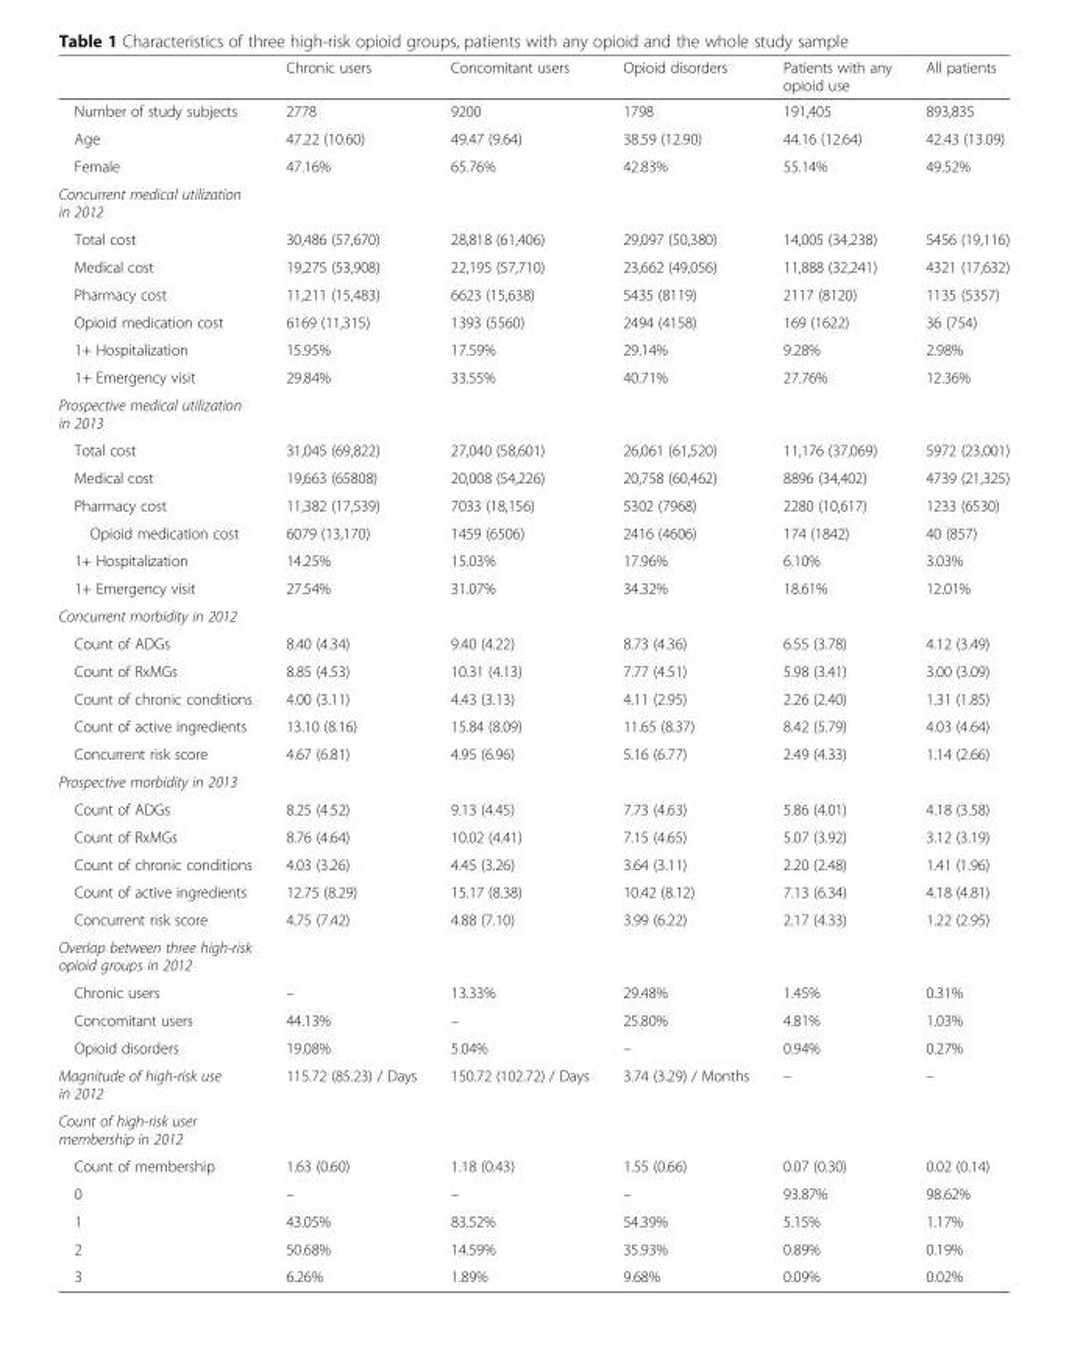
<table><thead><tr><td></td><td>Chronic users</td><td>Concomitant users</td><td>Opioid disorders</td><td>Patients with any opioid use</td><td>All patients</td></tr></thead><tbody><tr><td>Number of study subjects</td><td>2778</td><td>9200</td><td>1798</td><td>191,405</td><td>893,835</td></tr><tr><td>Age</td><td>47.22 (10.60)</td><td>49.47 (9.64)</td><td>38.59 (12.90)</td><td>44.16 (12.64)</td><td>42.43 (13.09)</td></tr><tr><td>Female</td><td>47.16%</td><td>65.76%</td><td>42.83%</td><td>55.14%</td><td>49.52%</td></tr><tr><td colspan="6">Concurrent medical utilization in 2012</td></tr><tr><td>Total cost</td><td>30,486 (57,670)</td><td>28,818 (61,406)</td><td>29,097 (50,380)</td><td>14,005 (34,238)</td><td>5456 (19,116)</td></tr><tr><td>Medical cost</td><td>19,275 (53,908)</td><td>22,195 (57,710)</td><td>23,662 (49,056)</td><td>11,888 (32,241)</td><td>4321 (17,632)</td></tr><tr><td>Pharmacy cost</td><td>11,211 (15,483)</td><td>6623 (15,638)</td><td>5435 (8119)</td><td>2117 (8120)</td><td>1135 (5357)</td></tr><tr><td>Opioid medication cost</td><td>6169 (11,315)</td><td>1393 (5560)</td><td>2494 (4158)</td><td>169 (1622)</td><td>36 (754)</td></tr><tr><td>1+ Hospitalization</td><td>15.95%</td><td>17.59%</td><td>29.14%</td><td>9.28%</td><td>2.98%</td></tr><tr><td>1+ Emergency visit</td><td>29.84%</td><td>33.55%</td><td>40.71%</td><td>27.76%</td><td>12.36%</td></tr><tr><td colspan="6">Prospective medical utilization in 2013</td></tr><tr><td>Total cost</td><td>31,045 (69,822)</td><td>27,040 (58,601)</td><td>26,061 (61,520)</td><td>11,176 (37,069)</td><td>5972 (23,001)</td></tr><tr><td>Medical cost</td><td>19,663 (65808)</td><td>20,008 (54,226)</td><td>20,758 (60,462)</td><td>8896 (34,402)</td><td>4739 (21,325)</td></tr><tr><td>Pharmacy cost</td><td>11,382 (17,539)</td><td>7033 (18,156)</td><td>5302 (7968)</td><td>2280 (10,617)</td><td>1233 (6530)</td></tr><tr><td>Opioid medication cost</td><td>6079 (13,170)</td><td>1459 (6506)</td><td>2416 (4606)</td><td>174 (1842)</td><td>40 (857)</td></tr><tr><td>1+ Hospitalization</td><td>14.25%</td><td>15.03%</td><td>17.96%</td><td>6.10%</td><td>3.03%</td></tr><tr><td>1+ Emergency visit</td><td>27.54%</td><td>31.07%</td><td>34.32%</td><td>18.61%</td><td>12.01%</td></tr><tr><td colspan="6">Concurrent morbidity in 2012</td></tr><tr><td>Count of ADGs</td><td>8.40 (4.34)</td><td>9.40 (4.22)</td><td>8.73 (4.36)</td><td>6.55 (3.78)</td><td>4.12 (3.49)</td></tr><tr><td>Count of RxMGs</td><td>8.85 (4.53)</td><td>10.31 (4.13)</td><td>7.77 (4.51)</td><td>5.98 (3.41)</td><td>3.00 (3.09)</td></tr><tr><td>Count of chronic conditions</td><td>4.00 (3.11)</td><td>4.43 (3.13)</td><td>4.11 (2.95)</td><td>2.26 (2.40)</td><td>1.31 (1.85)</td></tr><tr><td>Count of active ingredients</td><td>13.10 (8.16)</td><td>15.84 (8.09)</td><td>11.65 (8.37)</td><td>8.42 (5.79)</td><td>4.03 (4.64)</td></tr><tr><td>Concurrent risk score</td><td>4.67 (6.81)</td><td>4.95 (6.96)</td><td>5.16 (6.77)</td><td>2.49 (4.33)</td><td>1.14 (2.66)</td></tr><tr><td colspan="6">Prospective morbidity in 2013</td></tr><tr><td>Count of ADGs</td><td>8.25 (4.52)</td><td>9.13 (4.45)</td><td>7.73 (4.63)</td><td>5.86 (4.01)</td><td>4.18 (3.58)</td></tr><tr><td>Count of RxMGs</td><td>8.76 (4.64)</td><td>10.02 (4.41)</td><td>7.15 (4.65)</td><td>5.07 (3.92)</td><td>3.12 (3.19)</td></tr><tr><td>Count of chronic conditions</td><td>4.03 (3.26)</td><td>4.45 (3.26)</td><td>3.64 (3.11)</td><td>2.20 (2.48)</td><td>1.41 (1.96)</td></tr><tr><td>Count of active ingredients</td><td>12.75 (8.29)</td><td>15.17 (8.38)</td><td>10.42 (8.12)</td><td>7.13 (6.34)</td><td>4.18 (4.81)</td></tr><tr><td>Concurrent risk score</td><td>4.75 (7.42)</td><td>4.88 (7.10)</td><td>3.99 (6.22)</td><td>2.17 (4.33)</td><td>1.22 (2.95)</td></tr><tr><td colspan="6">Overlap between three high-risk opioid groups in 2012</td></tr><tr><td>Chronic users</td><td>–</td><td>13.33%</td><td>29.48%</td><td>1.45%</td><td>0.31%</td></tr><tr><td>Concomitant users</td><td>44.13%</td><td>–</td><td>25.80%</td><td>4.81%</td><td>1.03%</td></tr><tr><td>Opioid disorders</td><td>19.08%</td><td>5.04%</td><td>–</td><td>0.94%</td><td>0.27%</td></tr><tr><td>Magnitude of high-risk use in 2012</td><td>115.72 (85.23) / Days</td><td>150.72 (102.72) / Days</td><td>3.74 (3.29) / Months</td><td>–</td><td>–</td></tr><tr><td colspan="6">Count of high-risk user membership in 2012</td></tr><tr><td>Count of membership</td><td>1.63 (0.60)</td><td>1.18 (0.43)</td><td>1.55 (0.66)</td><td>0.07 (0.30)</td><td>0.02 (0.14)</td></tr><tr><td>0</td><td>–</td><td>–</td><td>–</td><td>93.87%</td><td>98.62%</td></tr><tr><td>1</td><td>43.05%</td><td>83.52%</td><td>54.39%</td><td>5.15%</td><td>1.17%</td></tr><tr><td>2</td><td>50.68%</td><td>14.59%</td><td>35.93%</td><td>0.89%</td><td>0.19%</td></tr><tr><td>3</td><td>6.26%</td><td>1.89%</td><td>9.68%</td><td>0.09%</td><td>0.02%</td></tr></tbody></table>